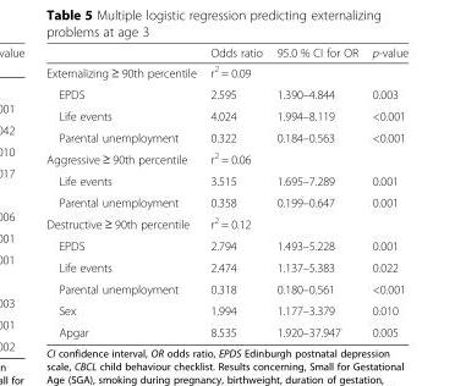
<table><thead><tr><td></td><td>Odds ratio</td><td>95.0 % CI for OR</td><td>p-value</td></tr></thead><tbody><tr><td>Externalizing ≥ 90th percentile</td><td>r<sup>2</sup> = 0.09</td><td></td><td></td></tr><tr><td>EPDS</td><td>2.595</td><td>1.390–4.844</td><td>0.003</td></tr><tr><td>Life events</td><td>4.024</td><td>1.994–8.119</td><td>&lt;0.001</td></tr><tr><td>Parental unemployment</td><td>0.322</td><td>0.184–0.563</td><td>&lt;0.001</td></tr><tr><td>Aggressive ≥ 90th percentile</td><td>r<sup>2</sup> = 0.06</td><td></td><td></td></tr><tr><td>Life events</td><td>3.515</td><td>1.695–7.289</td><td>0.001</td></tr><tr><td>Parental unemployment</td><td>0.358</td><td>0.199–0.647</td><td>0.001</td></tr><tr><td>Destructive ≥ 90th percentile</td><td>r<sup>2</sup> = 0.12</td><td></td><td></td></tr><tr><td>EPDS</td><td>2.794</td><td>1.493–5.228</td><td>0.001</td></tr><tr><td>Life events</td><td>2.474</td><td>1.137–5.383</td><td>0.022</td></tr><tr><td>Parental unemployment</td><td>0.318</td><td>0.180–0.561</td><td>&lt;0.001</td></tr><tr><td>Sex</td><td>1.994</td><td>1.177–3.379</td><td>0.010</td></tr><tr><td>Apgar</td><td>8.535</td><td>1.920–37.947</td><td>0.005</td></tr></tbody></table>